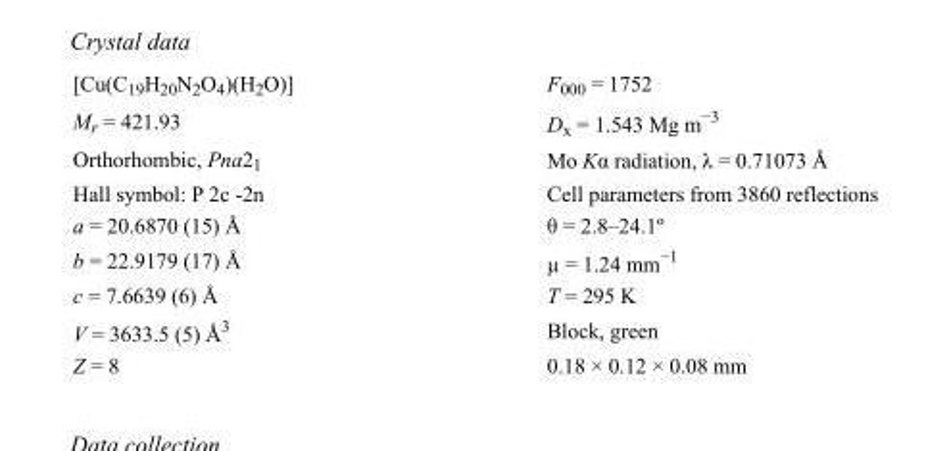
<table><tbody><tr><td>[Cu(C<sub>19</sub>H<sub>20</sub>N<sub>2</sub>O<sub>4</sub>)(H<sub>2</sub>O)]</td><td>F000 = 1752</td></tr><tr><td>M<sub>r</sub> = 421.93</td><td>D<sub>x</sub> = 1.543 Mg m<sup>−3</sup></td></tr><tr><td>Orthorhombic, Pna2<sub>1</sub></td><td>Mo Kα radiation, λ = 0.71073 Å</td></tr><tr><td>Hall symbol: P 2c -2n</td><td>Cell parameters from 3860 reflections</td></tr><tr><td>a = 20.6870 (15) Å</td><td>θ = 2.8–24.1º</td></tr><tr><td>b = 22.9179 (17) Å</td><td>µ = 1.24 mm<sup>−1</sup></td></tr><tr><td>c = 7.6639 (6) Å</td><td>T = 295 K</td></tr><tr><td>V = 3633.5 (5) Å<sup>3</sup></td><td>Block, green</td></tr><tr><td>Z = 8</td><td>0.18 × 0.12 × 0.08 mm</td></tr></tbody></table>